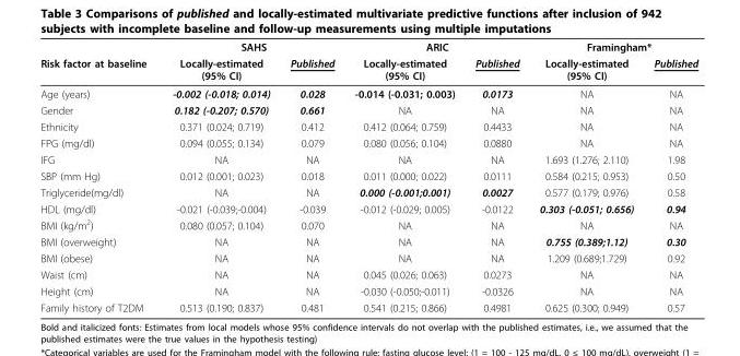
<table><thead><tr><td rowspan="2">Risk factor at baseline</td><td colspan="2">SAHS</td><td colspan="2">ARIC</td><td colspan="2">Framingham*</td></tr><tr><td>Locally-estimated (95% CI)</td><td>Published</td><td>Locally-estimated (95% CI)</td><td>Published</td><td>Locally-estimated (95% CI)</td><td>Published</td></tr></thead><tbody><tr><td>Age (years)</td><td>-0.002 (-0.018; 0.014)</td><td>0.028</td><td>-0.014 (-0.031; 0.003)</td><td>0.0173</td><td>NA</td><td>NA</td></tr><tr><td>Gender</td><td>0.182 (-0.207; 0.570)</td><td>0.661</td><td>NA</td><td>NA</td><td>NA</td><td>NA</td></tr><tr><td>Ethnicity</td><td>0.371 (0.024; 0.719)</td><td>0.412</td><td>0.412 (0.064; 0.759)</td><td>0.4433</td><td>NA</td><td>NA</td></tr><tr><td>FPG (mg/dl)</td><td>0.094 (0.055; 0.134)</td><td>0.079</td><td>0.080 (0.056; 0.104)</td><td>0.0880</td><td>NA</td><td>NA</td></tr><tr><td>IFG</td><td>NA</td><td>NA</td><td>NA</td><td>NA</td><td>1.693 (1.276; 2.110)</td><td>1.98</td></tr><tr><td>SBP (mm Hg)</td><td>0.012 (0.001; 0.023)</td><td>0.018</td><td>0.011 (0.000; 0.022)</td><td>0.0111</td><td>0.584 (0.215; 0.953)</td><td>0.50</td></tr><tr><td>Triglyceride(mg/dl)</td><td>NA</td><td>NA</td><td>0.000 (-0.001;0.001)</td><td>0.0027</td><td>0.577 (0.179; 0.976)</td><td>0.58</td></tr><tr><td>HDL (mg/dl)</td><td>-0.021 (-0.039;-0.004)</td><td>-0.039</td><td>-0.012 (-0.029; 0.005)</td><td>-0.0122</td><td>0.303 (-0.051; 0.656)</td><td>0.94</td></tr><tr><td>BMI (kg/m<sup>2</sup>)</td><td>0.080 (0.057; 0.104)</td><td>0.070</td><td>NA</td><td>NA</td><td>NA</td><td>NA</td></tr><tr><td>BMI (overweight)</td><td>NA</td><td>NA</td><td>NA</td><td>NA</td><td>0.755 (0.389;1.12)</td><td>0.30</td></tr><tr><td>BMI (obese)</td><td>NA</td><td>NA</td><td>NA</td><td>NA</td><td>1.209 (0.689;1.729)</td><td>0.92</td></tr><tr><td>Waist (cm)</td><td>NA</td><td>NA</td><td>0.045 (0.026; 0.063)</td><td>0.0273</td><td>NA</td><td>NA</td></tr><tr><td>Height (cm)</td><td>NA</td><td>NA</td><td>-0.030 (-0.050;-0.011)</td><td>-0.0326</td><td>NA</td><td>NA</td></tr><tr><td>Family history of T2DM</td><td>0.513 (0.190; 0.837)</td><td>0.481</td><td>0.541 (0.215; 0.866)</td><td>0.4981</td><td>0.625 (0.300; 0.949)</td><td>0.57</td></tr></tbody></table>